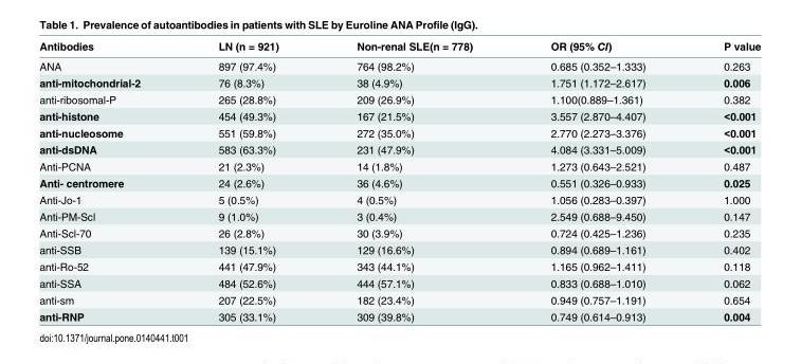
<table><thead><tr><td>Antibodies</td><td>LN (n = 921)</td><td>Non-renal SLE(n = 778)</td><td>OR (95% CI)</td><td>P value</td></tr></thead><tbody><tr><td>ANA</td><td>897 (97.4%)</td><td>764 (98.2%)</td><td>0.685 (0.352–1.333)</td><td>0.263</td></tr><tr><td>anti-mitochondrial-2</td><td>76 (8.3%)</td><td>38 (4.9%)</td><td>1.751 (1.172–2.617)</td><td>0.006</td></tr><tr><td>anti-ribosomal-P</td><td>265 (28.8%)</td><td>209 (26.9%)</td><td>1.100(0.889–1.361)</td><td>0.382</td></tr><tr><td>anti-histone</td><td>454 (49.3%)</td><td>167 (21.5%)</td><td>3.557 (2.870–4.407)</td><td>&lt;0.001</td></tr><tr><td>anti-nucleosome</td><td>551 (59.8%)</td><td>272 (35.0%)</td><td>2.770 (2.273–3.376)</td><td>&lt;0.001</td></tr><tr><td>anti-dsDNA</td><td>583 (63.3%)</td><td>231 (47.9%)</td><td>4.084 (3.331–5.009)</td><td>&lt;0.001</td></tr><tr><td>Anti-PCNA</td><td>21 (2.3%)</td><td>14 (1.8%)</td><td>1.273 (0.643–2.521)</td><td>0.487</td></tr><tr><td>Anti- centromere</td><td>24 (2.6%)</td><td>36 (4.6%)</td><td>0.551 (0.326–0.933)</td><td>0.025</td></tr><tr><td>Anti-Jo-1</td><td>5 (0.5%)</td><td>4 (0.5%)</td><td>1.056 (0.283–0.397)</td><td>1.000</td></tr><tr><td>Anti-PM-Scl</td><td>9 (1.0%)</td><td>3 (0.4%)</td><td>2.549 (0.688–9.450)</td><td>0.147</td></tr><tr><td>Anti-Scl-70</td><td>26 (2.8%)</td><td>30 (3.9%)</td><td>0.724 (0.425–1.236)</td><td>0.235</td></tr><tr><td>anti-SSB</td><td>139 (15.1%)</td><td>129 (16.6%)</td><td>0.894 (0.689–1.161)</td><td>0.402</td></tr><tr><td>anti-Ro-52</td><td>441 (47.9%)</td><td>343 (44.1%)</td><td>1.165 (0.962–1.411)</td><td>0.118</td></tr><tr><td>anti-SSA</td><td>484 (52.6%)</td><td>444 (57.1%)</td><td>0.833 (0.688–1.010)</td><td>0.062</td></tr><tr><td>anti-sm</td><td>207 (22.5%)</td><td>182 (23.4%)</td><td>0.949 (0.757–1.191)</td><td>0.654</td></tr><tr><td>anti-RNP</td><td>305 (33.1%)</td><td>309 (39.8%)</td><td>0.749 (0.614–0.913)</td><td>0.004</td></tr></tbody></table>